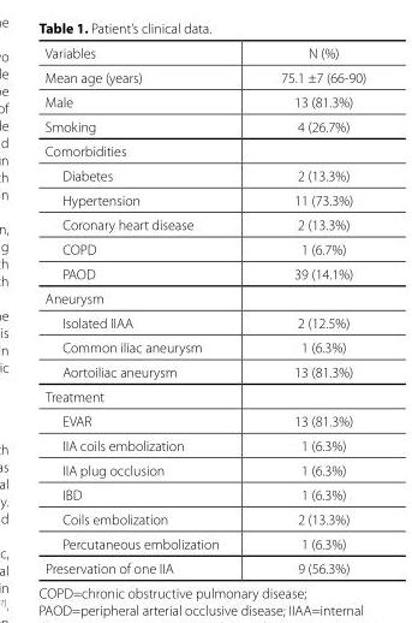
<table><thead><tr><td>Variables</td><td>N (%)</td></tr></thead><tbody><tr><td>Mean age (years)</td><td>75.1 ±7 (66-90)</td></tr><tr><td>Male</td><td>13 (81.3%)</td></tr><tr><td>Smoking</td><td>4 (26.7%)</td></tr><tr><td colspan="2">Comorbidities</td></tr><tr><td>Diabetes</td><td>2 (13.3%)</td></tr><tr><td>Hypertension</td><td>11 (73.3%)</td></tr><tr><td>Coronary heart disease</td><td>2 (13.3%)</td></tr><tr><td>COPD</td><td>1 (6.7%)</td></tr><tr><td>PAOD</td><td>39 (14.1%)</td></tr><tr><td colspan="2">Aneurysm</td></tr><tr><td>Isolated IIAA</td><td>2 (12.5%)</td></tr><tr><td>Common iliac aneurysm</td><td>1 (6.3%)</td></tr><tr><td>Aortoiliac aneurysm</td><td>13 (81.3%)</td></tr><tr><td colspan="2">Treatment</td></tr><tr><td>EVAR</td><td>13 (81.3%)</td></tr><tr><td>IIA coils embolization</td><td>1 (6.3%)</td></tr><tr><td>IIA plug occlusion</td><td>1 (6.3%)</td></tr><tr><td>IBD</td><td>1 (6.3%)</td></tr><tr><td>Coils embolization</td><td>2 (13.3%)</td></tr><tr><td>Percutaneous embolization</td><td>1 (6.3%)</td></tr><tr><td>Preservation of one IIA</td><td>9 (56.3%)</td></tr></tbody></table>